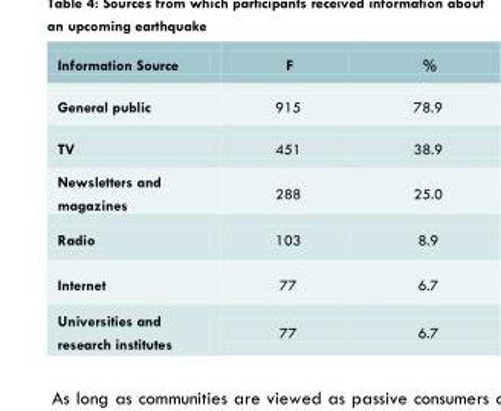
<table><thead><tr><td>Information Source</td><td>F</td><td>%</td></tr></thead><tbody><tr><td>General public</td><td>915</td><td>78.9</td></tr><tr><td>TV</td><td>451</td><td>38.9</td></tr><tr><td>Newsletters and magazines</td><td>288</td><td>25.0</td></tr><tr><td>Radio</td><td>103</td><td>8.9</td></tr><tr><td>Internet</td><td>77</td><td>6.7</td></tr><tr><td>Universities and research institutes</td><td>77</td><td>6.7</td></tr></tbody></table>